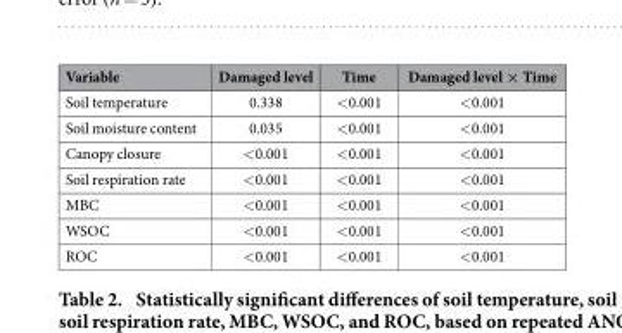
<table><thead><tr><td>Variable</td><td>Damaged level</td><td>Time</td><td>Damaged level × Time</td></tr></thead><tbody><tr><td>Soil temperature</td><td>0.338</td><td>&lt; 0.001</td><td>&lt; 0.001</td></tr><tr><td>Soil moisture content</td><td>0.035</td><td>&lt; 0.001</td><td>&lt; 0.001</td></tr><tr><td>Canopy closure</td><td>&lt; 0.001</td><td>&lt; 0.001</td><td>&lt; 0.001</td></tr><tr><td>Soil respiration rate</td><td>&lt; 0.001</td><td>&lt; 0.001</td><td>&lt; 0.001</td></tr><tr><td>MBC</td><td>&lt; 0.001</td><td>&lt; 0.001</td><td>&lt; 0.001</td></tr><tr><td>WSOC</td><td>&lt; 0.001</td><td>&lt; 0.001</td><td>&lt; 0.001</td></tr><tr><td>ROC</td><td>&lt; 0.001</td><td>&lt; 0.001</td><td>&lt; 0.001</td></tr></tbody></table>